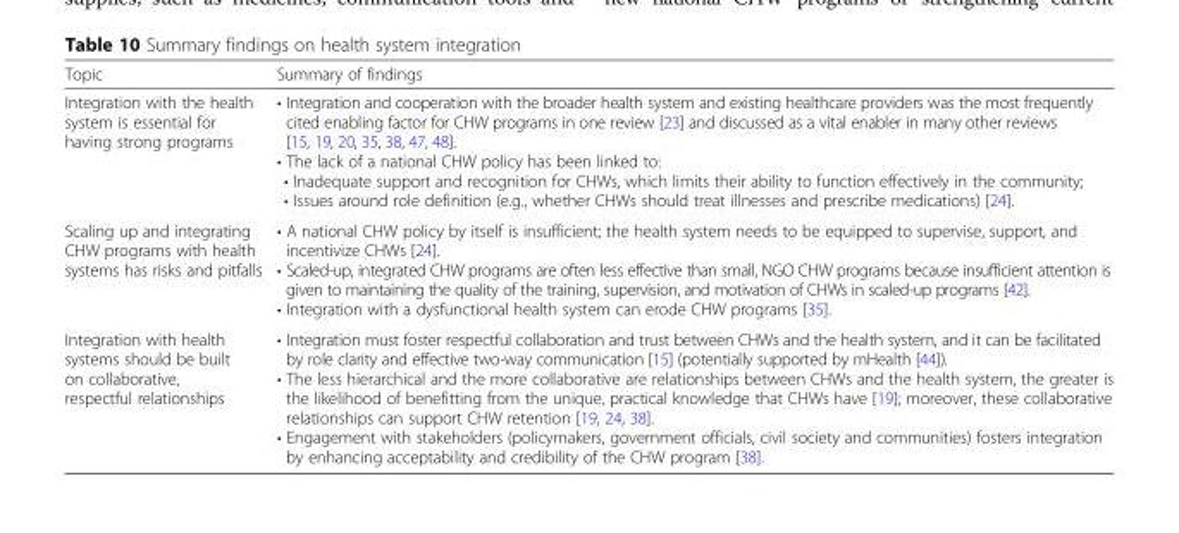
<table><thead><tr><td>Topic</td><td>Summary of findings</td></tr></thead><tbody><tr><td>Integration with the health system is essential for having strong programs</td><td>• Integration and cooperation with the broader health system and existing healthcare providers was the most frequently cited enabling factor for CHW programs in one review [23] and discussed as a vital enabler in many other reviews [15, 19, 20, 35, 38, 47, 48]. • The lack of a national CHW policy has been linked to: • Inadequate support and recognition for CHWs, which limits their ability to function effectively in the community; • Issues around role definition (e.g., whether CHWs should treat illnesses and prescribe medications) [24].</td></tr><tr><td>Scaling up and integrating CHW programs with health systems has risks and pitfalls</td><td>• A national CHW policy by itself is insufficient; the health system needs to be equipped to supervise, support, and incentivize CHWs [24]. • Scaled-up, integrated CHW programs are often less effective than small, NGO CHW programs because insufficient attention is given to maintaining the quality of the training, supervision, and motivation of CHWs in scaled-up programs [42]. • Integration with a dysfunctional health system can erode CHW programs [35].</td></tr><tr><td>Integration with health systems should be built on collaborative, respectful relationships</td><td>• Integration must foster respectful collaboration and trust between CHWs and the health system, and it can be facilitated by role clarity and effective two-way communication [15] (potentially supported by mHealth [44]). • The less hierarchical and the more collaborative are relationships between CHWs and the health system, the greater is the likelihood of benefitting from the unique, practical knowledge that CHWs have [19]; moreover, these collaborative relationships can support CHW retention [19, 24, 38]. • Engagement with stakeholders (policymakers, government officials, civil society and communities) fosters integration by enhancing acceptability and credibility of the CHW program [38].</td></tr></tbody></table>